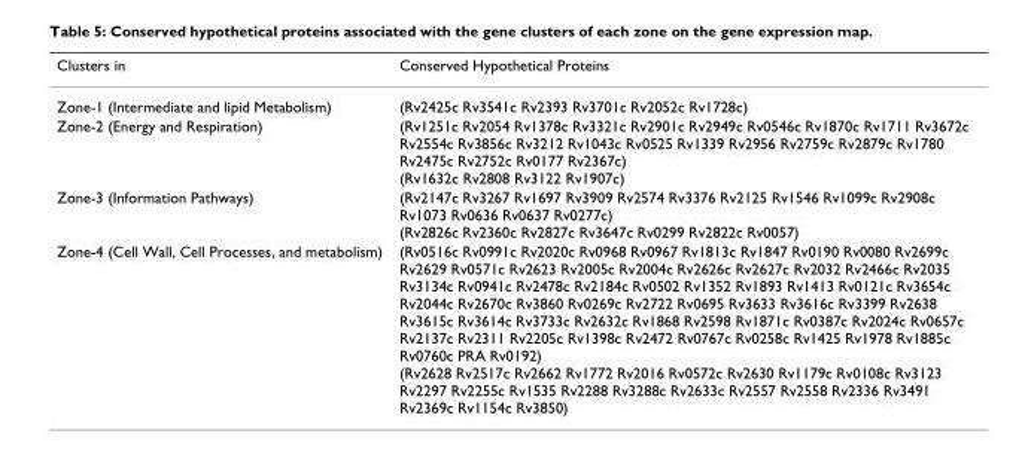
<table><thead><tr><td>Clusters in</td><td>Conserved Hypothetical Proteins</td></tr></thead><tbody><tr><td>Zone-1 (Intermediate and lipid Metabolism)</td><td>(Rv2425c Rv3541c Rv2393 Rv3701c Rv2052c Rv1728c)</td></tr><tr><td>Zone-2 (Energy and Respiration)</td><td>(Rv1251c Rv2054 Rv1378c Rv3321c Rv2901c Rv2949c Rv0546c Rv1870c Rv1711 Rv3672c Rv2554c Rv3856c Rv3212 Rv1043c Rv0525 Rv1339 Rv2956 Rv2759c Rv2879c Rv1780 Rv2475c Rv2752c Rv0177 Rv2367c) (Rv1632c Rv2808 Rv3122 Rv1907c)</td></tr><tr><td>Zone-3 (Information Pathways)</td><td>(Rv2147c Rv3267 Rv1697 Rv3909 Rv2574 Rv3376 Rv2125 Rv1546 Rv1099c Rv2908c Rv1073 Rv0636 Rv0637 Rv0277c) (Rv2826c Rv2360c Rv2827c Rv3647c Rv0299 Rv2822c Rv0057)</td></tr><tr><td>Zone-4 (Cell Wall, Cell Processes, and metabolism)</td><td>(Rv0516c Rv0991c Rv2020c Rv0968 Rv0967 Rv1813c Rv1847 Rv0190 Rv0080 Rv2699c Rv2629 Rv0571c Rv2623 Rv2005c Rv2004c Rv2626c Rv2627c Rv2032 Rv2466c Rv2035 Rv3134c Rv0941c Rv2478c Rv2184c Rv0502 Rv1352 Rv1893 Rv1413 Rv0121c Rv3654c Rv2044c Rv2670c Rv3860 Rv0269c Rv2722 Rv0695 Rv3633 Rv3616c Rv3399 Rv2638 Rv3615c Rv3614c Rv3733c Rv2632c Rv1868 Rv2598 Rv1871c Rv0387c Rv2024c Rv0657c Rv2137c Rv2311 Rv2205c Rv1398c Rv2472 Rv0767c Rv0258c Rv1425 Rv1978 Rv1885c Rv0760c PRA Rv0192) (Rv2628 Rv2517c Rv2662 Rv1772 Rv2016 Rv0572c Rv2630 Rv1179c Rv0108c Rv3123 Rv2297 Rv2255c Rv1535 Rv2288 Rv3288c Rv2633c Rv2557 Rv2558 Rv2336 Rv3491 Rv2369c Rv1154c Rv3850)</td></tr></tbody></table>